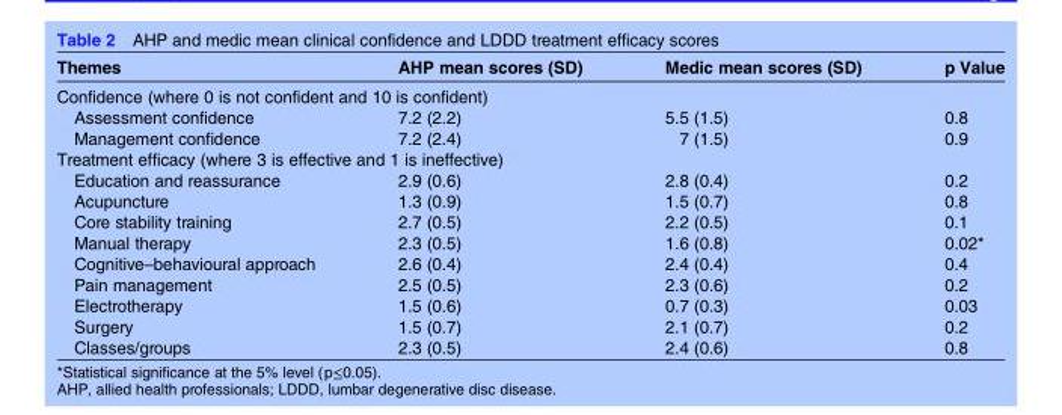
<table><thead><tr><td>Themes</td><td>AHP mean scores (SD)</td><td>Medic mean scores (SD)</td><td>p Value</td></tr></thead><tbody><tr><td colspan="4">Confidence (where 0 is not confident and 10 is confident)</td></tr><tr><td>Assessment confidence</td><td>7.2 (2.2)</td><td>5.5 (1.5)</td><td>0.8</td></tr><tr><td>Management confidence</td><td>7.2 (2.4)</td><td>7 (1.5)</td><td>0.9</td></tr><tr><td colspan="4">Treatment efficacy (where 3 is effective and 1 is ineffective)</td></tr><tr><td>Education and reassurance</td><td>2.9 (0.6)</td><td>2.8 (0.4)</td><td>0.2</td></tr><tr><td>Acupuncture</td><td>1.3 (0.9)</td><td>1.5 (0.7)</td><td>0.8</td></tr><tr><td>Core stability training</td><td>2.7 (0.5)</td><td>2.2 (0.5)</td><td>0.1</td></tr><tr><td>Manual therapy</td><td>2.3 (0.5)</td><td>1.6 (0.8)</td><td>0.02*</td></tr><tr><td>Cognitive–behavioural approach</td><td>2.6 (0.4)</td><td>2.4 (0.4)</td><td>0.4</td></tr><tr><td>Pain management</td><td>2.5 (0.5)</td><td>2.3 (0.6)</td><td>0.2</td></tr><tr><td>Electrotherapy</td><td>1.5 (0.6)</td><td>0.7 (0.3)</td><td>0.03</td></tr><tr><td>Surgery</td><td>1.5 (0.7)</td><td>2.1 (0.7)</td><td>0.2</td></tr><tr><td>Classes/groups</td><td>2.3 (0.5)</td><td>2.4 (0.6)</td><td>0.8</td></tr></tbody></table>